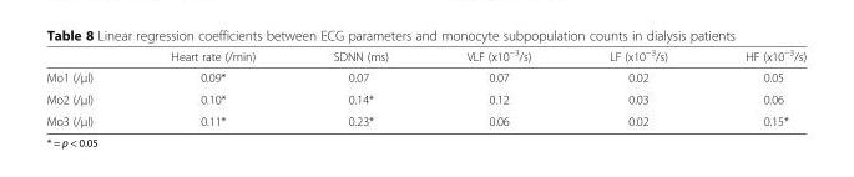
<table><thead><tr><td></td><td>Heart rate (/min)</td><td>SDNN (ms)</td><td>VLF (x10<sup>−3</sup>/s)</td><td>LF (x10<sup>−3</sup>/s)</td><td>HF (x10<sup>−3</sup>/s)</td></tr></thead><tbody><tr><td>Mo1 (/μl)</td><td>0.09*</td><td>0.07</td><td>0.07</td><td>0.02</td><td>0.05</td></tr><tr><td>Mo2 (/μl)</td><td>0.10*</td><td>0.14*</td><td>0.12</td><td>0.03</td><td>0.06</td></tr><tr><td>Mo3 (/μl)</td><td>0.11*</td><td>0.23*</td><td>0.06</td><td>0.02</td><td>0.15*</td></tr></tbody></table>